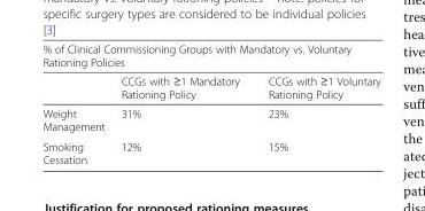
<table><thead><tr><td colspan="3">% of Clinical Commissioning Groups with Mandatory vs. Voluntary Rationing Policies</td></tr><tr><td></td><td>CCGs with ≥1 Mandatory Rationing Policy</td><td>CCGs with ≥1 Voluntary Rationing Policy</td></tr></thead><tbody><tr><td>Weight Management</td><td>31%</td><td>23%</td></tr><tr><td>Smoking Cessation</td><td>12%</td><td>15%</td></tr></tbody></table>